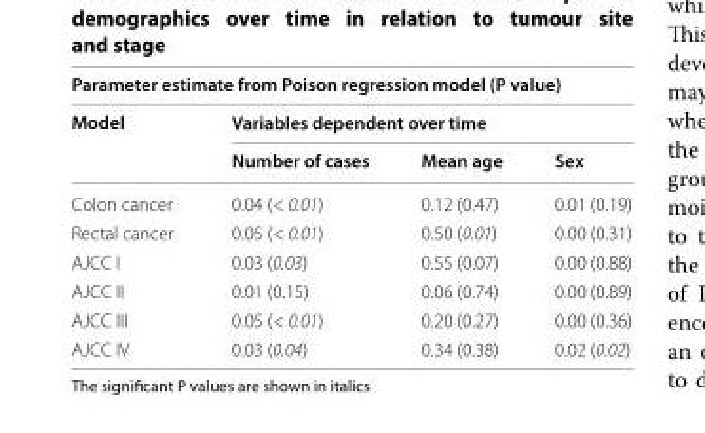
<table><thead><tr><td colspan="4">Parameter estimate from Poison regression model (P value)</td></tr><tr><td rowspan="2">Model</td><td colspan="3">Variables dependent over time</td></tr><tr><td>Number of cases</td><td>Mean age</td><td>Sex</td></tr></thead><tbody><tr><td>Colon cancer</td><td>0.04 (&lt; 0.01)</td><td>0.12 (0.47)</td><td>0.01 (0.19)</td></tr><tr><td>Rectal cancer</td><td>0.05 (&lt; 0.01)</td><td>0.50 (0.01)</td><td>0.00 (0.31)</td></tr><tr><td>AJCC I</td><td>0.03 (0.03)</td><td>0.55 (0.07)</td><td>0.00 (0.88)</td></tr><tr><td>AJCC II</td><td>0.01 (0.15)</td><td>0.06 (0.74)</td><td>0.00 (0.89)</td></tr><tr><td>AJCC III</td><td>0.05 (&lt; 0.01)</td><td>0.20 (0.27)</td><td>0.00 (0.36)</td></tr><tr><td>AJCC IV</td><td>0.03 (0.04)</td><td>0.34 (0.38)</td><td>0.02 (0.02)</td></tr></tbody></table>